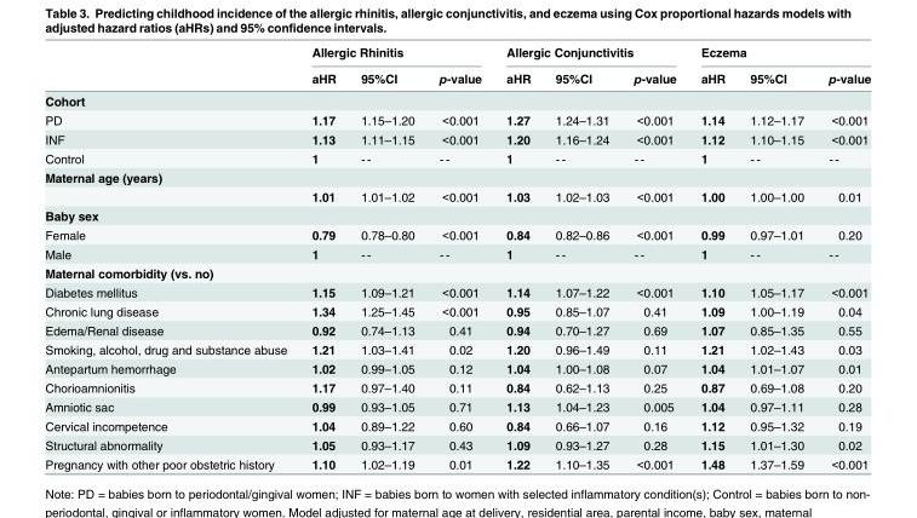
<table><thead><tr><td rowspan="2"></td><td colspan="3">Allergic Rhinitis</td><td colspan="3">Allergic Conjunctivitis</td><td colspan="3">Eczema</td></tr><tr><td>aHR</td><td>95%CI</td><td>p-value</td><td>aHR</td><td>95%CI</td><td>p-value</td><td>aHR</td><td>95%CI</td><td>p-value</td></tr></thead><tbody><tr><td colspan="10">Cohort</td></tr><tr><td>PD</td><td>1.17</td><td>1.15–1.20</td><td>&lt;0.001</td><td>1.27</td><td>1.24–1.31</td><td>&lt;0.001</td><td>1.14</td><td>1.12–1.17</td><td>&lt;0.001</td></tr><tr><td>INF</td><td>1.13</td><td>1.11–1.15</td><td>&lt;0.001</td><td>1.20</td><td>1.16–1.24</td><td>&lt;0.001</td><td>1.12</td><td>1.10–1.15</td><td>&lt;0.001</td></tr><tr><td>Control</td><td>1</td><td>- -</td><td>- -</td><td>1</td><td>- -</td><td>- -</td><td>1</td><td>- -</td><td>- -</td></tr><tr><td colspan="10">Maternal age (years)</td></tr><tr><td></td><td>1.01</td><td>1.01–1.02</td><td>&lt;0.001</td><td>1.03</td><td>1.02–1.03</td><td>&lt;0.001</td><td>1.00</td><td>1.00–1.00</td><td>0.01</td></tr><tr><td colspan="10">Baby sex</td></tr><tr><td>Female</td><td>0.79</td><td>0.78–0.80</td><td>&lt;0.001</td><td>0.84</td><td>0.82–0.86</td><td>&lt;0.001</td><td>0.99</td><td>0.97–1.01</td><td>0.20</td></tr><tr><td>Male</td><td>1</td><td>- -</td><td>- -</td><td>1</td><td>- -</td><td>- -</td><td>1</td><td>- -</td><td>- -</td></tr><tr><td colspan="10">Maternal comorbidity (vs. no)</td></tr><tr><td>Diabetes mellitus</td><td>1.15</td><td>1.09–1.21</td><td>&lt;0.001</td><td>1.14</td><td>1.07–1.22</td><td>&lt;0.001</td><td>1.10</td><td>1.05–1.17</td><td>&lt;0.001</td></tr><tr><td>Chronic lung disease</td><td>1.34</td><td>1.25–1.45</td><td>&lt;0.001</td><td>0.95</td><td>0.85–1.07</td><td>0.41</td><td>1.09</td><td>1.00–1.19</td><td>0.04</td></tr><tr><td>Edema/Renal disease</td><td>0.92</td><td>0.74–1.13</td><td>0.41</td><td>0.94</td><td>0.70–1.27</td><td>0.69</td><td>1.07</td><td>0.85–1.35</td><td>0.55</td></tr><tr><td>Smoking, alcohol, drug and substance abuse</td><td>1.21</td><td>1.03–1.41</td><td>0.02</td><td>1.20</td><td>0.96–1.49</td><td>0.11</td><td>1.21</td><td>1.02–1.43</td><td>0.03</td></tr><tr><td>Antepartum hemorrhage</td><td>1.02</td><td>0.99–1.05</td><td>0.12</td><td>1.04</td><td>1.00–1.08</td><td>0.07</td><td>1.04</td><td>1.01–1.07</td><td>0.01</td></tr><tr><td>Chorioamnionitis</td><td>1.17</td><td>0.97–1.40</td><td>0.11</td><td>0.84</td><td>0.62–1.13</td><td>0.25</td><td>0.87</td><td>0.69–1.08</td><td>0.20</td></tr><tr><td>Amniotic sac</td><td>0.99</td><td>0.93–1.05</td><td>0.71</td><td>1.13</td><td>1.04–1.23</td><td>0.005</td><td>1.04</td><td>0.97–1.11</td><td>0.28</td></tr><tr><td>Cervical incompetence</td><td>1.04</td><td>0.89–1.22</td><td>0.60</td><td>0.84</td><td>0.66–1.07</td><td>0.16</td><td>1.12</td><td>0.95–1.32</td><td>0.19</td></tr><tr><td>Structural abnormality</td><td>1.05</td><td>0.93–1.17</td><td>0.43</td><td>1.09</td><td>0.93–1.27</td><td>0.28</td><td>1.15</td><td>1.01–1.30</td><td>0.02</td></tr><tr><td>Pregnancy with other poor obstetric history</td><td>1.10</td><td>1.02–1.19</td><td>0.01</td><td>1.22</td><td>1.10–1.35</td><td>&lt;0.001</td><td>1.48</td><td>1.37–1.59</td><td>&lt;0.001</td></tr></tbody></table>